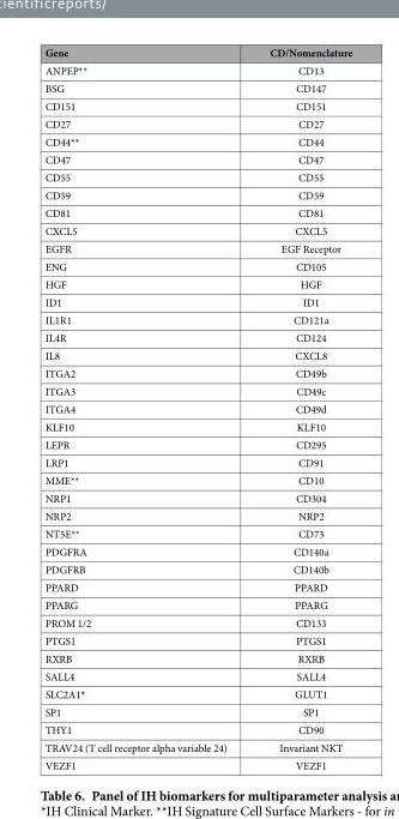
<table><thead><tr><td>Gene</td><td>CD/Nomenclature</td></tr></thead><tbody><tr><td>ANPEP**</td><td>CD13</td></tr><tr><td>BSG</td><td>CD147</td></tr><tr><td>CD151</td><td>CD151</td></tr><tr><td>CD27</td><td>CD27</td></tr><tr><td>CD44**</td><td>CD44</td></tr><tr><td>CD47</td><td>CD47</td></tr><tr><td>CD55</td><td>CD55</td></tr><tr><td>CD59</td><td>CD59</td></tr><tr><td>CD81</td><td>CD81</td></tr><tr><td>CXCL5</td><td>CXCL5</td></tr><tr><td>EGFR</td><td>EGF Receptor</td></tr><tr><td>ENG</td><td>CD105</td></tr><tr><td>HGF</td><td>HGF</td></tr><tr><td>ID1</td><td>ID1</td></tr><tr><td>IL1R1</td><td>CD121a</td></tr><tr><td>IL4R</td><td>CD124</td></tr><tr><td>IL8</td><td>CXCL8</td></tr><tr><td>ITGA2</td><td>CD49b</td></tr><tr><td>ITGA3</td><td>CD49c</td></tr><tr><td>ITGA4</td><td>CD49d</td></tr><tr><td>KLF10</td><td>KLF10</td></tr><tr><td>LEPR</td><td>CD295</td></tr><tr><td>LRP1</td><td>CD91</td></tr><tr><td>MME**</td><td>CD10</td></tr><tr><td>NRP1</td><td>CD304</td></tr><tr><td>NRP2</td><td>NRP2</td></tr><tr><td>NT5E**</td><td>CD73</td></tr><tr><td>PDGFRA</td><td>CD140a</td></tr><tr><td>PDGFRB</td><td>CD140b</td></tr><tr><td>PPARD</td><td>PPARD</td></tr><tr><td>PPARG</td><td>PPARG</td></tr><tr><td>PROM 1/2</td><td>CD133</td></tr><tr><td>PTGS1</td><td>PTGS1</td></tr><tr><td>RXRB</td><td>RXRB</td></tr><tr><td>SALL4</td><td>SALL4</td></tr><tr><td>SLC2A1*</td><td>GLUT1</td></tr><tr><td>SP1</td><td>SP1</td></tr><tr><td>THY1</td><td>CD90</td></tr><tr><td>TRAV24 (T cell receptor alpha variable 24)</td><td>Invariant NKT</td></tr><tr><td>VEZF1</td><td>VEZF1</td></tr></tbody></table>